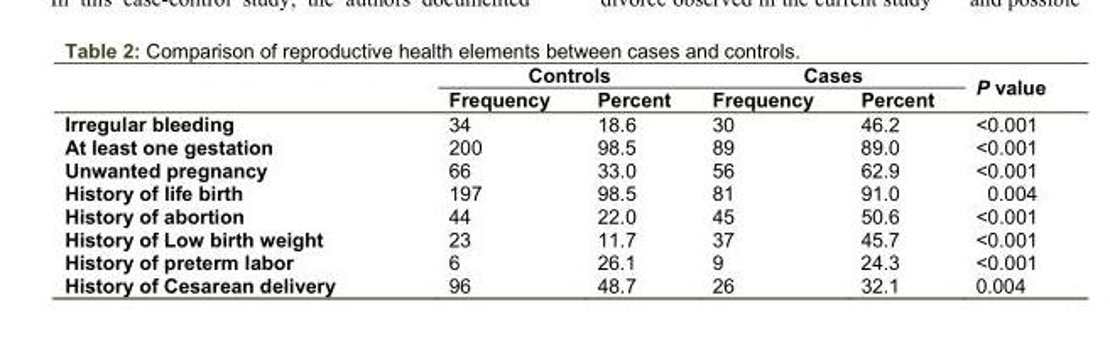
<table><thead><tr><td rowspan="2"></td><td colspan="2">Controls</td><td colspan="2">Cases</td><td rowspan="2">P value</td></tr><tr><td>Frequency</td><td>Percent</td><td>Frequency</td><td>Percent</td></tr></thead><tbody><tr><td>Irregular bleeding</td><td>34</td><td>18.6</td><td>30</td><td>46.2</td><td>&lt;0.001</td></tr><tr><td>At least one gestation</td><td>200</td><td>98.5</td><td>89</td><td>89.0</td><td>&lt;0.001</td></tr><tr><td>Unwanted pregnancy</td><td>66</td><td>33.0</td><td>56</td><td>62.9</td><td>&lt;0.001</td></tr><tr><td>History of life birth</td><td>197</td><td>98.5</td><td>81</td><td>91.0</td><td>0.004</td></tr><tr><td>History of abortion</td><td>44</td><td>22.0</td><td>45</td><td>50.6</td><td>&lt;0.001</td></tr><tr><td>History of Low birth weight</td><td>23</td><td>11.7</td><td>37</td><td>45.7</td><td>&lt;0.001</td></tr><tr><td>History of preterm labor</td><td>6</td><td>26.1</td><td>9</td><td>24.3</td><td>&lt;0.001</td></tr><tr><td>History of Cesarean delivery</td><td>96</td><td>48.7</td><td>26</td><td>32.1</td><td>0.004</td></tr></tbody></table>